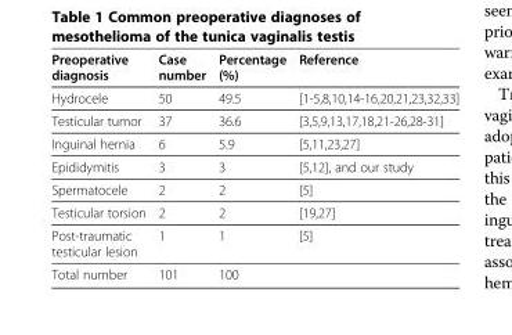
<table><thead><tr><td>Preoperative diagnosis</td><td>Case number</td><td>Percentage (%)</td><td>Reference</td></tr></thead><tbody><tr><td>Hydrocele</td><td>50</td><td>49.5</td><td>[1-5,8,10,14-16,20,21,23,32,33]</td></tr><tr><td>Testicular tumor</td><td>37</td><td>36.6</td><td>[3,5,9,13,17,18,21-26,28-31]</td></tr><tr><td>Inguinal hernia</td><td>6</td><td>5.9</td><td>[5,11,23,27]</td></tr><tr><td>Epididymitis</td><td>3</td><td>3</td><td>[5,12], and our study</td></tr><tr><td>Spermatocele</td><td>2</td><td>2</td><td>[5]</td></tr><tr><td>Testicular torsion</td><td>2</td><td>2</td><td>[19,27]</td></tr><tr><td>Post-traumatic testicular lesion</td><td>1</td><td>1</td><td>[5]</td></tr><tr><td>Total number</td><td>101</td><td>100</td><td></td></tr></tbody></table>